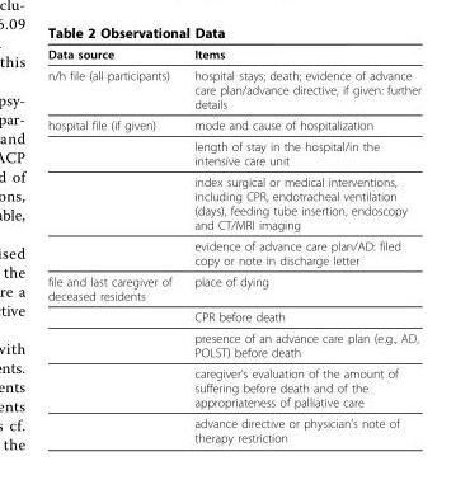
<table><thead><tr><td>Data source</td><td>Items</td></tr></thead><tbody><tr><td>n/h file (all participants)</td><td>hospital stays; death; evidence of advance care plan/advance directive, if given: further details</td></tr><tr><td rowspan="4">hospital file (if given)</td><td>mode and cause of hospitalization</td></tr><tr><td>length of stay in the hospital/in the intensive care unit</td></tr><tr><td>index surgical or medical interventions, including CPR, endotracheal ventilation (days), feeding tube insertion, endoscopy and CT/MRI imaging</td></tr><tr><td>evidence of advance care plan/AD: filed copy or note in discharge letter</td></tr><tr><td rowspan="5">file and last caregiver of deceased residents</td><td>place of dying</td></tr><tr><td>CPR before death</td></tr><tr><td>presence of an advance care plan (e.g., AD, POLST) before death</td></tr><tr><td>caregiver’s evaluation of the amount of suffering before death and of the appropriateness of palliative care</td></tr><tr><td>advance directive or physician’s note of therapy restriction</td></tr></tbody></table>